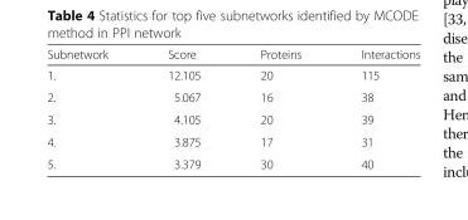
<table><thead><tr><td>Subnetwork</td><td>Score</td><td>Proteins</td><td>Interactions</td></tr></thead><tbody><tr><td>1.</td><td>12.105</td><td>20</td><td>115</td></tr><tr><td>2.</td><td>5.067</td><td>16</td><td>38</td></tr><tr><td>3.</td><td>4.105</td><td>20</td><td>39</td></tr><tr><td>4.</td><td>3.875</td><td>17</td><td>31</td></tr><tr><td>5.</td><td>3.379</td><td>30</td><td>40</td></tr></tbody></table>